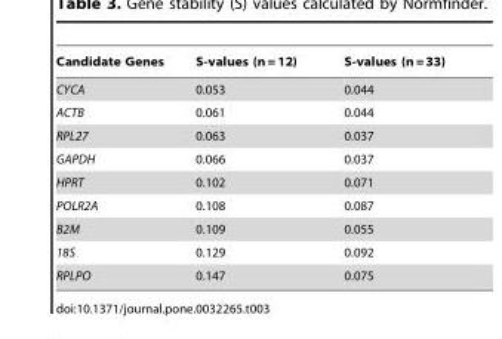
<table><thead><tr><td>Candidate Genes</td><td>S-values (n = 12)</td><td>S-values (n = 33)</td></tr></thead><tbody><tr><td>CYCA</td><td>0.053</td><td>0.044</td></tr><tr><td>ACTB</td><td>0.061</td><td>0.044</td></tr><tr><td>RPL27</td><td>0.063</td><td>0.037</td></tr><tr><td>GAPDH</td><td>0.066</td><td>0.037</td></tr><tr><td>HPRT</td><td>0.102</td><td>0.071</td></tr><tr><td>POLR2A</td><td>0.108</td><td>0.087</td></tr><tr><td>B2M</td><td>0.109</td><td>0.055</td></tr><tr><td>18S</td><td>0.129</td><td>0.092</td></tr><tr><td>RPLPO</td><td>0.147</td><td>0.075</td></tr></tbody></table>